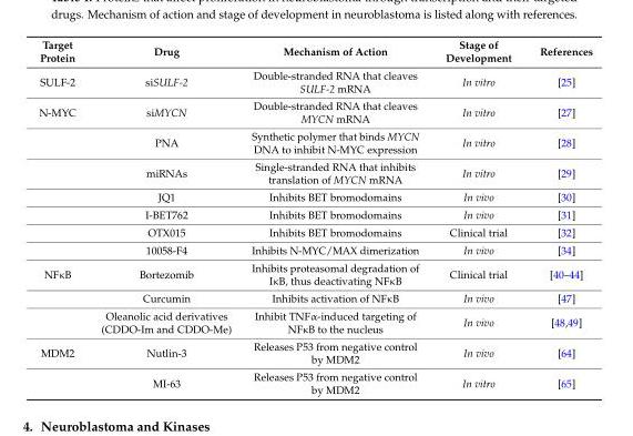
<table><thead><tr><td>Target Protein</td><td>Drug</td><td>Mechanism of Action</td><td>Stage of Development</td><td>References</td></tr></thead><tbody><tr><td>SULF-2</td><td>siSULF-2</td><td>Double-stranded RNA that cleaves SULF-2 mRNA</td><td>In vitro</td><td>[25]</td></tr><tr><td rowspan="7">N-MYC</td><td>siMYCN</td><td>Double-stranded RNA that cleaves MYCN mRNA</td><td>In vitro</td><td>[27]</td></tr><tr><td>PNA</td><td>Synthetic polymer that binds MYCN DNA to inhibit N-MYC expression</td><td>In vitro</td><td>[28]</td></tr><tr><td>miRNAs</td><td>Single-stranded RNA that inhibits translation of MYCN mRNA</td><td>In vitro</td><td>[29]</td></tr><tr><td>JQ1</td><td>Inhibits BET bromodomains</td><td>In vivo</td><td>[30]</td></tr><tr><td>I-BET762</td><td>Inhibits BET bromodomains</td><td>In vivo</td><td>[31]</td></tr><tr><td>OTX015</td><td>Inhibits BET bromodomains</td><td>Clinical trial</td><td>[32]</td></tr><tr><td>10058-F4</td><td>Inhibits N-MYC/MAX dimerization</td><td>In vivo</td><td>[34]</td></tr><tr><td rowspan="3">NFκB</td><td>Bortezomib</td><td>Inhibits proteasomal degradation of IκB, thus deactivating NFκB</td><td>Clinical trial</td><td>[40–44]</td></tr><tr><td>Curcumin</td><td>Inhibits activation of NFκB</td><td>In vivo</td><td>[47]</td></tr><tr><td>Oleanolic acid derivatives (CDDO-Im and CDDO-Me)</td><td>Inhibit TNFα-induced targeting of NFκB to the nucleus</td><td>In vivo</td><td>[48,49]</td></tr><tr><td rowspan="2">MDM2</td><td>Nutlin-3</td><td>Releases P53 from negative control by MDM2</td><td>In vivo</td><td>[64]</td></tr><tr><td>MI-63</td><td>Releases P53 from negative control by MDM2</td><td>In vitro</td><td>[65]</td></tr></tbody></table>